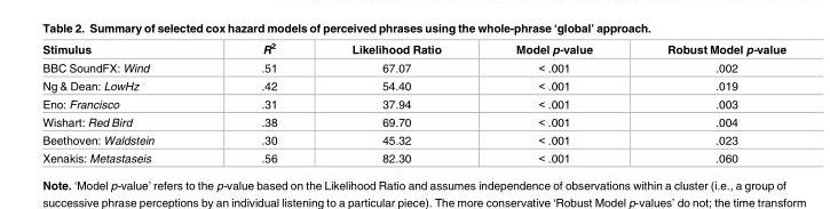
<table><thead><tr><td>Stimulus</td><td>R<sup>2</sup></td><td>Likelihood Ratio</td><td>Model p-value</td><td>Robust Model p-value</td></tr></thead><tbody><tr><td>BBC SoundFX: Wind</td><td>.51</td><td>67.07</td><td>&lt; .001</td><td>.002</td></tr><tr><td>Ng &amp; Dean: LowHz</td><td>.42</td><td>54.40</td><td>&lt; .001</td><td>.019</td></tr><tr><td>Eno: Francisco</td><td>.31</td><td>37.94</td><td>&lt; .001</td><td>.003</td></tr><tr><td>Wishart: Red Bird</td><td>.38</td><td>69.70</td><td>&lt; .001</td><td>.004</td></tr><tr><td>Beethoven: Waldstein</td><td>.30</td><td>45.32</td><td>&lt; .001</td><td>.023</td></tr><tr><td>Xenakis: Metastaseis</td><td>.56</td><td>82.30</td><td>&lt; .001</td><td>.060</td></tr></tbody></table>